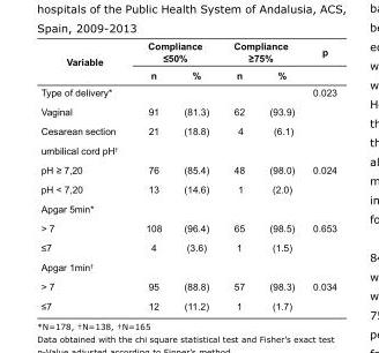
<table><tbody><tr><td rowspan="2">Variable</td><td colspan="2">Compliance ≤50%</td><td colspan="2">Compliance ≥75%</td><td>p</td></tr><tr><td>n</td><td>%</td><td>n</td><td>%</td><td></td></tr><tr><td colspan="5">Type of delivery*</td><td rowspan="3">0.023</td></tr><tr><td>Vaginal</td><td>91</td><td>(81.3)</td><td>62</td><td>(93.9)</td></tr><tr><td>Cesarean section</td><td>21</td><td>(18.8)</td><td>4</td><td>(6.1)</td></tr><tr><td colspan="6">umbilical cord pH<sup>†</sup></td></tr><tr><td>pH ≥ 7,20</td><td>76</td><td>(85.4)</td><td>48</td><td>(98.0)</td><td rowspan="2">0.024</td></tr><tr><td>pH &lt; 7,20</td><td>13</td><td>(14.6)</td><td>1</td><td>(2.0)</td></tr><tr><td colspan="6">Apgar 5min*</td></tr><tr><td>&gt; 7</td><td>108</td><td>(96.4)</td><td>65</td><td>(98.5)</td><td rowspan="2">0.653</td></tr><tr><td>≤7</td><td>4</td><td>(3.6)</td><td>1</td><td>(1.5)</td></tr><tr><td colspan="6">Apgar 1min<sup>†</sup></td></tr><tr><td>&gt; 7</td><td>95</td><td>(88.8)</td><td>57</td><td>(98.3)</td><td rowspan="2">0.034</td></tr><tr><td>≤7</td><td>12</td><td>(11.2)</td><td>1</td><td>(1.7)</td></tr></tbody></table>